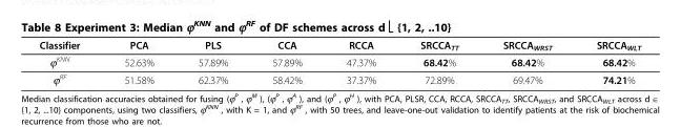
<table><thead><tr><td>Classifier</td><td>PCA</td><td>PLS</td><td>CCA</td><td>RCCA</td><td>SRCCA<sub>TT</sub></td><td>SRCCA<sub>WRST</sub></td><td>SRCCA<sub>WLT</sub></td></tr></thead><tbody><tr><td>ϕ<sup>KNN</sup></td><td>52.63%</td><td>57.89%</td><td>57.89%</td><td>47.37%</td><td>68.42%</td><td>68.42%</td><td>68.42%</td></tr><tr><td>ϕ<sup>RF</sup></td><td>51.58%</td><td>62.37%</td><td>58.42%</td><td>37.37%</td><td>72.89%</td><td>69.47%</td><td>74.21%</td></tr></tbody></table>